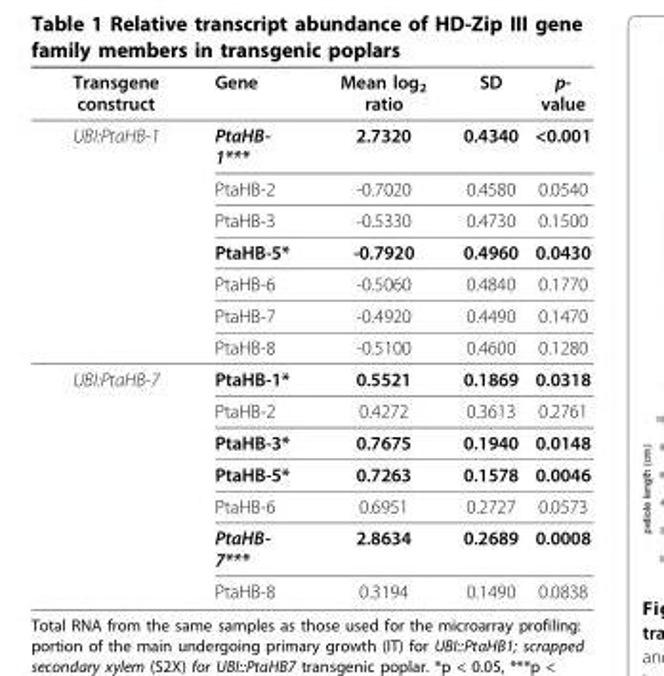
<table><thead><tr><td>Transgene construct</td><td>Gene</td><td>Mean log<sub>2</sub> ratio</td><td>SD</td><td>p- value</td></tr></thead><tbody><tr><td rowspan="7">UBI:PtaHB-1</td><td>PtaHB- 1***</td><td>2.7320</td><td>0.4340</td><td>&lt;0.001</td></tr><tr><td>PtaHB-2</td><td>-0.7020</td><td>0.4580</td><td>0.0540</td></tr><tr><td>PtaHB-3</td><td>-0.5330</td><td>0.4730</td><td>0.1500</td></tr><tr><td>PtaHB-5*</td><td>-0.7920</td><td>0.4960</td><td>0.0430</td></tr><tr><td>PtaHB-6</td><td>-0.5060</td><td>0.4840</td><td>0.1770</td></tr><tr><td>PtaHB-7</td><td>-0.4920</td><td>0.4490</td><td>0.1470</td></tr><tr><td>PtaHB-8</td><td>-0.5100</td><td>0.4600</td><td>0.1280</td></tr><tr><td rowspan="7">UBI:PtaHB-7</td><td>PtaHB-1*</td><td>0.5521</td><td>0.1869</td><td>0.0318</td></tr><tr><td>PtaHB-2</td><td>0.4272</td><td>0.3613</td><td>0.2761</td></tr><tr><td>PtaHB-3*</td><td>0.7675</td><td>0.1940</td><td>0.0148</td></tr><tr><td>PtaHB-5*</td><td>0.7263</td><td>0.1578</td><td>0.0046</td></tr><tr><td>PtaHB-6</td><td>0.6951</td><td>0.2727</td><td>0.0573</td></tr><tr><td>PtaHB- 7***</td><td>2.8634</td><td>0.2689</td><td>0.0008</td></tr><tr><td>PtaHB-8</td><td>0.3194</td><td>0.1490</td><td>0.0838</td></tr></tbody></table>